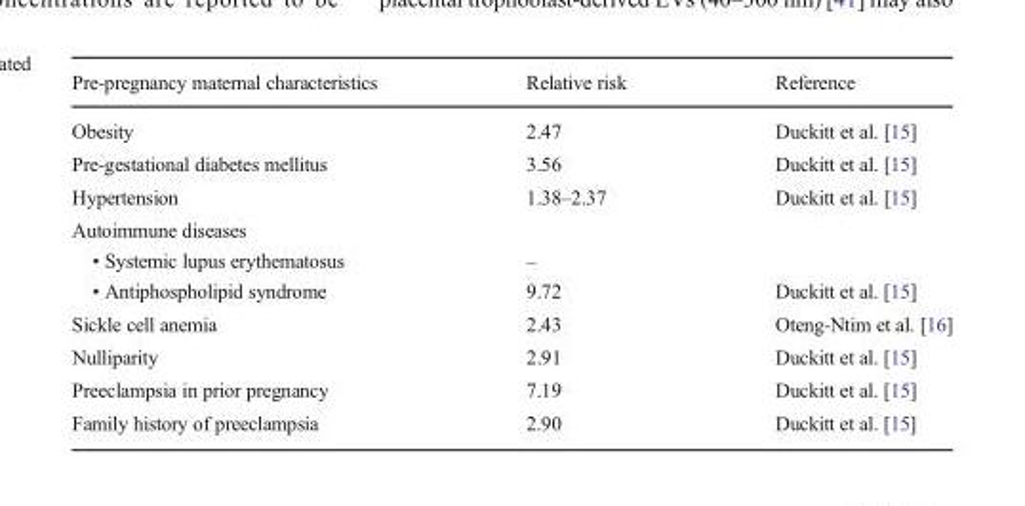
<table><thead><tr><td>Pre-pregnancy maternal characteristics</td><td>Relative risk</td><td>Reference</td></tr></thead><tbody><tr><td>Obesity</td><td>2.47</td><td>Duckitt et al. [15]</td></tr><tr><td>Pre-gestational diabetes mellitus</td><td>3.56</td><td>Duckitt et al. [15]</td></tr><tr><td>Hypertension</td><td>1.38–2.37</td><td>Duckitt et al. [15]</td></tr><tr><td colspan="3">Autoimmune diseases</td></tr><tr><td>• Systemic lupus erythematosus</td><td>–</td><td></td></tr><tr><td>• Antiphospholipid syndrome</td><td>9.72</td><td>Duckitt et al. [15]</td></tr><tr><td>Sickle cell anemia</td><td>2.43</td><td>Oteng-Ntim et al. [16]</td></tr><tr><td>Nulliparity</td><td>2.91</td><td>Duckitt et al. [15]</td></tr><tr><td>Preeclampsia in prior pregnancy</td><td>7.19</td><td>Duckitt et al. [15]</td></tr><tr><td>Family history of preeclampsia</td><td>2.90</td><td>Duckitt et al. [15]</td></tr></tbody></table>